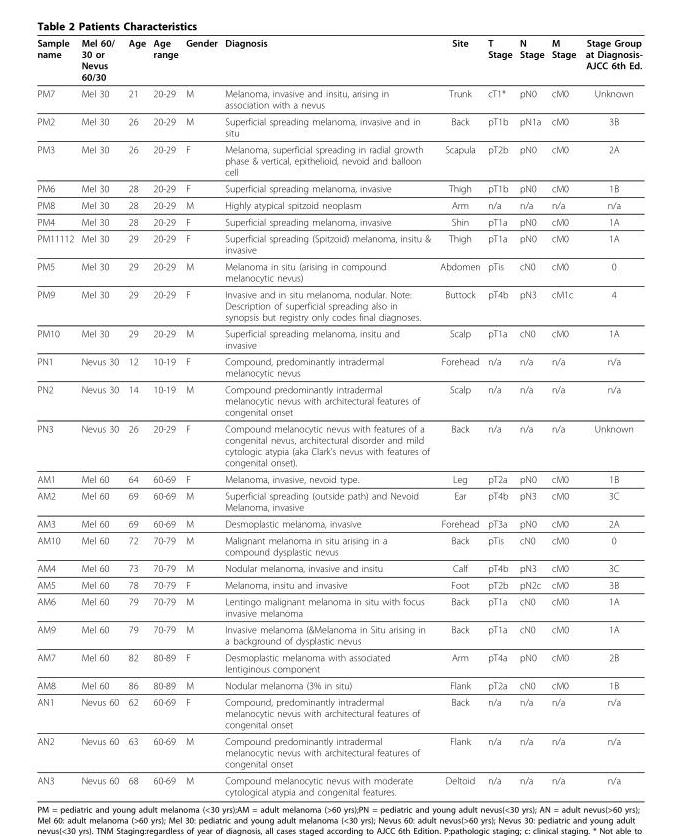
<table><thead><tr><td>Sample name</td><td>Mel 60/ 30 or Nevus 60/30</td><td>Age</td><td>Age range</td><td>Gender</td><td>Diagnosis</td><td>Site</td><td>T Stage</td><td>N Stage</td><td>M Stage</td><td>Stage Group at Diagnosis- AJCC 6th Ed.</td></tr></thead><tbody><tr><td>PM7</td><td>Mel 30</td><td>21</td><td>20-29</td><td>M</td><td>Melanoma, invasive and insitu, arising in association with a nevus</td><td>Trunk</td><td>cT1*</td><td>pN0</td><td>cM0</td><td>Unknown</td></tr><tr><td>PM2</td><td>Mel 30</td><td>26</td><td>20-29</td><td>M</td><td>Superficial spreading melanoma, invasive and in situ</td><td>Back</td><td>pT1b</td><td>pN1a</td><td>cM0</td><td>3B</td></tr><tr><td>PM3</td><td>Mel 30</td><td>26</td><td>20-29</td><td>F</td><td>Melanoma, superficial spreading in radial growth phase &amp; vertical, epithelioid, nevoid and balloon cell</td><td>Scapula</td><td>pT2b</td><td>pN0</td><td>cM0</td><td>2A</td></tr><tr><td>PM6</td><td>Mel 30</td><td>28</td><td>20-29</td><td>F</td><td>Superficial spreading melanoma, invasive</td><td>Thigh</td><td>pT1b</td><td>pN0</td><td>cM0</td><td>1B</td></tr><tr><td>PM8</td><td>Mel 30</td><td>28</td><td>20-29</td><td>M</td><td>Highly atypical spitzoid neoplasm</td><td>Arm</td><td>n/a</td><td>n/a</td><td>n/a</td><td>n/a</td></tr><tr><td>PM4</td><td>Mel 30</td><td>28</td><td>20-29</td><td>F</td><td>Superficial spreading melanoma, invasive</td><td>Shin</td><td>pT1a</td><td>pN0</td><td>cM0</td><td>1A</td></tr><tr><td>PM11112</td><td>Mel 30</td><td>29</td><td>20-29</td><td>F</td><td>Superficial spreading (Spitzoid) melanoma, insitu &amp; invasive</td><td>Thigh</td><td>pT1a</td><td>pN0</td><td>cM0</td><td>1A</td></tr><tr><td>PM5</td><td>Mel 30</td><td>29</td><td>20-29</td><td>M</td><td>Melanoma in situ (arising in compound melanocytic nevus)</td><td>Abdomen</td><td>pTis</td><td>cN0</td><td>cM0</td><td>0</td></tr><tr><td>PM9</td><td>Mel 30</td><td>29</td><td>20-29</td><td>F</td><td>Invasive and in situ melanoma, nodular. Note: Description of superficial spreading also in synopsis but registry only codes final diagnoses.</td><td>Buttock</td><td>pT4b</td><td>pN3</td><td>cM1c</td><td>4</td></tr><tr><td>PM10</td><td>Mel 30</td><td>29</td><td>20-29</td><td>M</td><td>Superficial spreading melanoma, insitu and invasive</td><td>Scalp</td><td>pT1a</td><td>cN0</td><td>cM0</td><td>1A</td></tr><tr><td>PN1</td><td>Nevus 30</td><td>12</td><td>10-19</td><td>F</td><td>Compound, predominantly intradermal melanocytic nevus</td><td>Forehead</td><td>n/a</td><td>n/a</td><td>n/a</td><td>n/a</td></tr><tr><td>PN2</td><td>Nevus 30</td><td>14</td><td>10-19</td><td>M</td><td>Compound predominantly intradermal melanocytic nevus with architectural features of congenital onset</td><td>Scalp</td><td>n/a</td><td>n/a</td><td>n/a</td><td>n/a</td></tr><tr><td>PN3</td><td>Nevus 30</td><td>26</td><td>20-29</td><td>F</td><td>Compound melanocytic nevus with features of a congenital nevus, architectural disorder and mild cytologic atypia (aka Clark’s nevus with features of congenital onset).</td><td>Back</td><td>n/a</td><td>n/a</td><td>n/a</td><td>Unknown</td></tr><tr><td>AM1</td><td>Mel 60</td><td>64</td><td>60-69</td><td>F</td><td>Melanoma, invasive, nevoid type.</td><td>Leg</td><td>pT2a</td><td>pN0</td><td>cM0</td><td>1B</td></tr><tr><td>AM2</td><td>Mel 60</td><td>69</td><td>60-69</td><td>M</td><td>Superficial spreading (outside path) and Nevoid Melanoma, invasive</td><td>Ear</td><td>pT4b</td><td>pN3</td><td>cM0</td><td>3C</td></tr><tr><td>AM3</td><td>Mel 60</td><td>69</td><td>60-69</td><td>M</td><td>Desmoplastic melanoma, invasive</td><td>Forehead</td><td>pT3a</td><td>pN0</td><td>cM0</td><td>2A</td></tr><tr><td>AM10</td><td>Mel 60</td><td>72</td><td>70-79</td><td>M</td><td>Malignant melanoma in situ arising in a compound dysplastic nevus</td><td>Back</td><td>pTis</td><td>cN0</td><td>cM0</td><td>0</td></tr><tr><td>AM4</td><td>Mel 60</td><td>73</td><td>70-79</td><td>M</td><td>Nodular melanoma, invasive and insitu</td><td>Calf</td><td>pT4b</td><td>pN3</td><td>cM0</td><td>3C</td></tr><tr><td>AM5</td><td>Mel 60</td><td>78</td><td>70-79</td><td>F</td><td>Melanoma, insitu and invasive</td><td>Foot</td><td>pT2b</td><td>pN2c</td><td>cM0</td><td>3B</td></tr><tr><td>AM6</td><td>Mel 60</td><td>79</td><td>70-79</td><td>M</td><td>Lentingo malignant melanoma in situ with focus invasive melanoma</td><td>Back</td><td>pT1a</td><td>cN0</td><td>cM0</td><td>1A</td></tr><tr><td>AM9</td><td>Mel 60</td><td>79</td><td>70-79</td><td>M</td><td>Invasive melanoma (&amp;Melanoma in Situ arising in a background of dysplastic nevus</td><td>Back</td><td>pT1a</td><td>cN0</td><td>cM0</td><td>1A</td></tr><tr><td>AM7</td><td>Mel 60</td><td>82</td><td>80-89</td><td>F</td><td>Desmoplastic melanoma with associated lentiginous component</td><td>Arm</td><td>pT4a</td><td>pN0</td><td>cM0</td><td>2B</td></tr><tr><td>AM8</td><td>Mel 60</td><td>86</td><td>80-89</td><td>M</td><td>Nodular melanoma (3% in situ)</td><td>Flank</td><td>pT2a</td><td>cN0</td><td>cM0</td><td>1B</td></tr><tr><td>AN1</td><td>Nevus 60</td><td>62</td><td>60-69</td><td>F</td><td>Compound, predominantly intradermal melanocytic nevus with architectural features of congenital onset</td><td>Back</td><td>n/a</td><td>n/a</td><td>n/a</td><td>n/a</td></tr><tr><td>AN2</td><td>Nevus 60</td><td>63</td><td>60-69</td><td>M</td><td>Compound predominantly intradermal melanocytic nevus with architectural features of congenital onset</td><td>Flank</td><td>n/a</td><td>n/a</td><td>n/a</td><td>n/a</td></tr><tr><td>AN3</td><td>Nevus 60</td><td>68</td><td>60-69</td><td>M</td><td>Compound melanocytic nevus with moderate cytological atypia and congenital features.</td><td>Deltoid</td><td>n/a</td><td>n/a</td><td>n/a</td><td>n/a</td></tr></tbody></table>